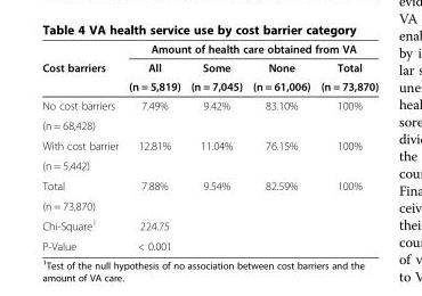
<table><thead><tr><td rowspan="3">Cost barriers</td><td colspan="4">Amount of health care obtained from VA</td></tr><tr><td rowspan="2">All (n = 5,819)</td><td rowspan="2">Some (n = 7,045)</td><td rowspan="2">None (n = 61,006)</td><td rowspan="2">Total (n = 73,870)</td></tr><tr></tr></thead><tbody><tr><td>No cost barriers</td><td rowspan="2">7.49%</td><td rowspan="2">9.42%</td><td rowspan="2">83.10%</td><td rowspan="2">100%</td></tr><tr><td>(n = 68,428)</td></tr><tr><td>With cost barrier</td><td rowspan="2">12.81%</td><td rowspan="2">11.04%</td><td rowspan="2">76.15%</td><td rowspan="2">100%</td></tr><tr><td>(n = 5,442)</td></tr><tr><td>Total</td><td rowspan="2">7.88%</td><td rowspan="2">9.54%</td><td rowspan="2">82.59%</td><td rowspan="2">100%</td></tr><tr><td>(n = 73,870)</td></tr><tr><td>Chi-Square<sup>1</sup></td><td>224.75</td><td></td><td></td><td></td></tr><tr><td>P-Value</td><td>&lt; 0.001</td><td></td><td></td><td></td></tr></tbody></table>